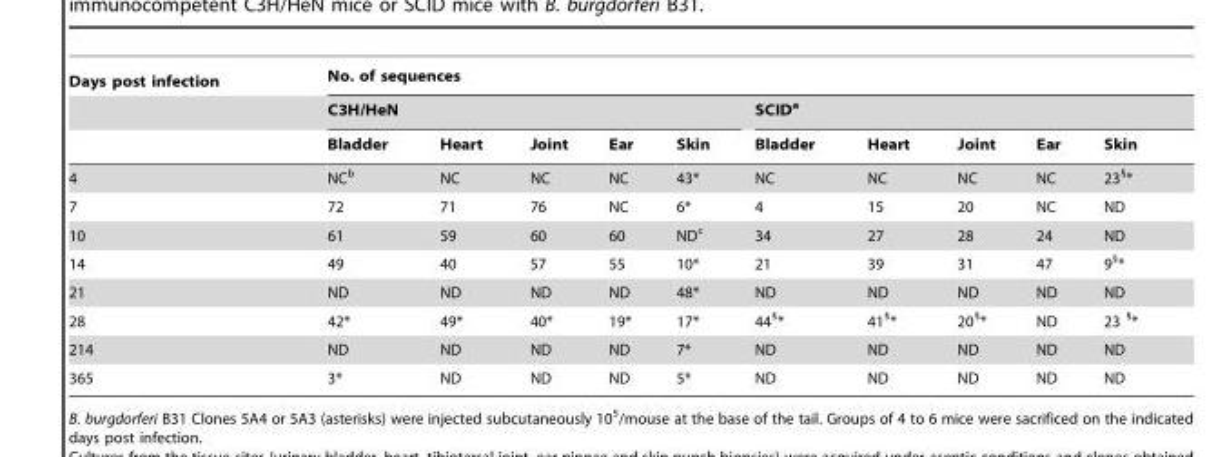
<table><thead><tr><td rowspan="3">Days post infection</td><td colspan="10">No. of sequences</td></tr><tr><td colspan="5">C3H/HeN</td><td colspan="5">SCID<sup>a</sup></td></tr><tr><td>Bladder</td><td>Heart</td><td>Joint</td><td>Ear</td><td>Skin</td><td>Bladder</td><td>Heart</td><td>Joint</td><td>Ear</td><td>Skin</td></tr></thead><tbody><tr><td>4</td><td>NC<sup>b</sup></td><td>NC</td><td>NC</td><td>NC</td><td>43*</td><td>NC</td><td>NC</td><td>NC</td><td>NC</td><td>23<sup>§</sup>*</td></tr><tr><td>7</td><td>72</td><td>71</td><td>76</td><td>NC</td><td>6*</td><td>4</td><td>15</td><td>20</td><td>NC</td><td>ND</td></tr><tr><td>10</td><td>61</td><td>59</td><td>60</td><td>60</td><td>ND<sup>c</sup></td><td>34</td><td>27</td><td>28</td><td>24</td><td>ND</td></tr><tr><td>14</td><td>49</td><td>40</td><td>57</td><td>55</td><td>10*</td><td>21</td><td>39</td><td>31</td><td>47</td><td>9<sup>§</sup>*</td></tr><tr><td>21</td><td>ND</td><td>ND</td><td>ND</td><td>ND</td><td>48*</td><td>ND</td><td>ND</td><td>ND</td><td>ND</td><td>ND</td></tr><tr><td>28</td><td>42*</td><td>49*</td><td>40*</td><td>19*</td><td>17*</td><td>44<sup>§</sup>*</td><td>41<sup>§</sup>*</td><td>20<sup>§</sup>*</td><td>ND</td><td>23 <sup>§</sup>*</td></tr><tr><td>214</td><td>ND</td><td>ND</td><td>ND</td><td>ND</td><td>7*</td><td>ND</td><td>ND</td><td>ND</td><td>ND</td><td>ND</td></tr><tr><td>365</td><td>3*</td><td>ND</td><td>ND</td><td>ND</td><td>5*</td><td>ND</td><td>ND</td><td>ND</td><td>ND</td><td>ND</td></tr></tbody></table>